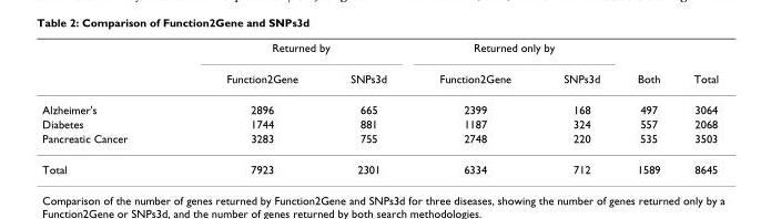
<table><thead><tr><td rowspan="2"></td><td colspan="2">Returned by</td><td colspan="2">Returned only by</td><td rowspan="2">Both</td><td rowspan="2">Total</td></tr><tr><td>Function2Gene</td><td>SNPs3d</td><td>Function2Gene</td><td>SNPs3d</td></tr></thead><tbody><tr><td>Alzheimer&#x27;s</td><td>2896</td><td>665</td><td>2399</td><td>168</td><td>497</td><td>3064</td></tr><tr><td>Diabetes</td><td>1744</td><td>881</td><td>1187</td><td>324</td><td>557</td><td>2068</td></tr><tr><td>Pancreatic Cancer</td><td>3283</td><td>755</td><td>2748</td><td>220</td><td>535</td><td>3503</td></tr><tr><td>Total</td><td>7923</td><td>2301</td><td>6334</td><td>712</td><td>1589</td><td>8645</td></tr></tbody></table>